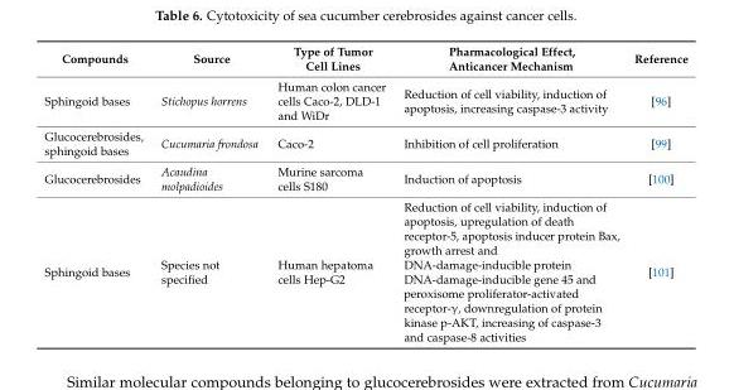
<table><thead><tr><td>Compounds</td><td>Source</td><td>Type of Tumor Cell Lines</td><td>Pharmacological Effect, Anticancer Mechanism</td><td>Reference</td></tr></thead><tbody><tr><td>Sphingoid bases</td><td>Stichopus horrens</td><td>Human colon cancer cells Caco-2, DLD-1 and WiDr</td><td>Reduction of cell viability, induction of apoptosis, increasing caspase-3 activity</td><td>[96]</td></tr><tr><td>Glucocerebrosides, sphingoid bases</td><td>Cucumaria frondosa</td><td>Caco-2</td><td>Inhibition of cell proliferation</td><td>[99]</td></tr><tr><td>Glucocerebrosides</td><td>Acaudina molpadioides</td><td>Murine sarcoma cells S180</td><td>Induction of apoptosis</td><td>[100]</td></tr><tr><td>Sphingoid bases</td><td>Species not specified</td><td>Human hepatoma cells Hep-G2</td><td>Reduction of cell viability, induction of apoptosis, upregulation of death receptor-5, apoptosis inducer protein Bax, growth arrest and DNA-damage-inducible protein DNA-damage-inducible gene 45 and peroxisome proliferator-activated receptor-γ, downregulation of protein kinase p-AKT, increasing of caspase-3 and caspase-8 activities</td><td>[101]</td></tr></tbody></table>